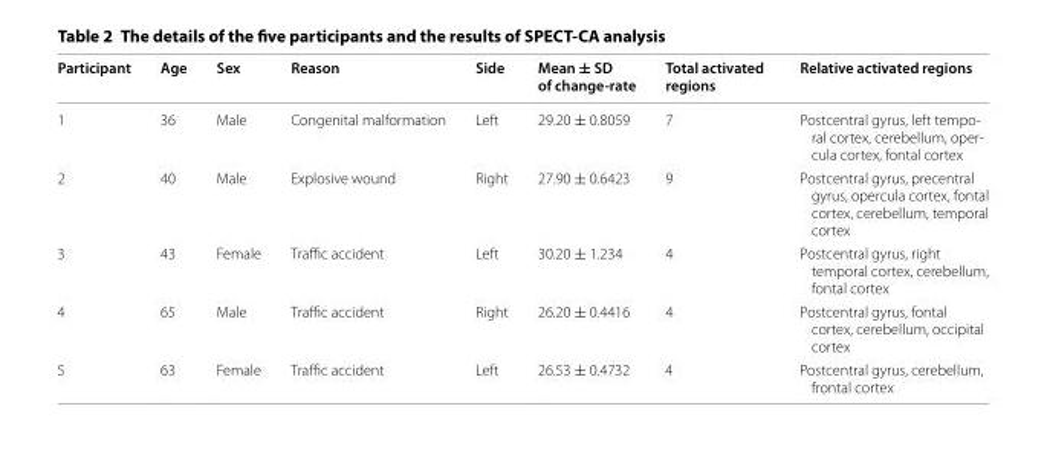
<table><thead><tr><td>Participant</td><td>Age</td><td>Sex</td><td>Reason</td><td>Side</td><td>Mean ± SD of change‑rate</td><td>Total activated regions</td><td>Relative activated regions</td></tr></thead><tbody><tr><td>1</td><td>36</td><td>Male</td><td>Congenital malformation</td><td>Left</td><td>29.20 ± 0.8059</td><td>7</td><td>Postcentral gyrus, left tempo- ral cortex, cerebellum, oper- cula cortex, fontal cortex</td></tr><tr><td>2</td><td>40</td><td>Male</td><td>Explosive wound</td><td>Right</td><td>27.90 ± 0.6423</td><td>9</td><td>Postcentral gyrus, precentral gyrus, opercula cortex, fontal cortex, cerebellum, temporal cortex</td></tr><tr><td>3</td><td>43</td><td>Female</td><td>Traffic accident</td><td>Left</td><td>30.20 ± 1.234</td><td>4</td><td>Postcentral gyrus, right temporal cortex, cerebellum, fontal cortex</td></tr><tr><td>4</td><td>65</td><td>Male</td><td>Traffic accident</td><td>Right</td><td>26.20 ± 0.4416</td><td>4</td><td>Postcentral gyrus, fontal cortex, cerebellum, occipital cortex</td></tr><tr><td>5</td><td>63</td><td>Female</td><td>Traffic accident</td><td>Left</td><td>26.53 ± 0.4732</td><td>4</td><td>Postcentral gyrus, cerebellum, frontal cortex</td></tr></tbody></table>